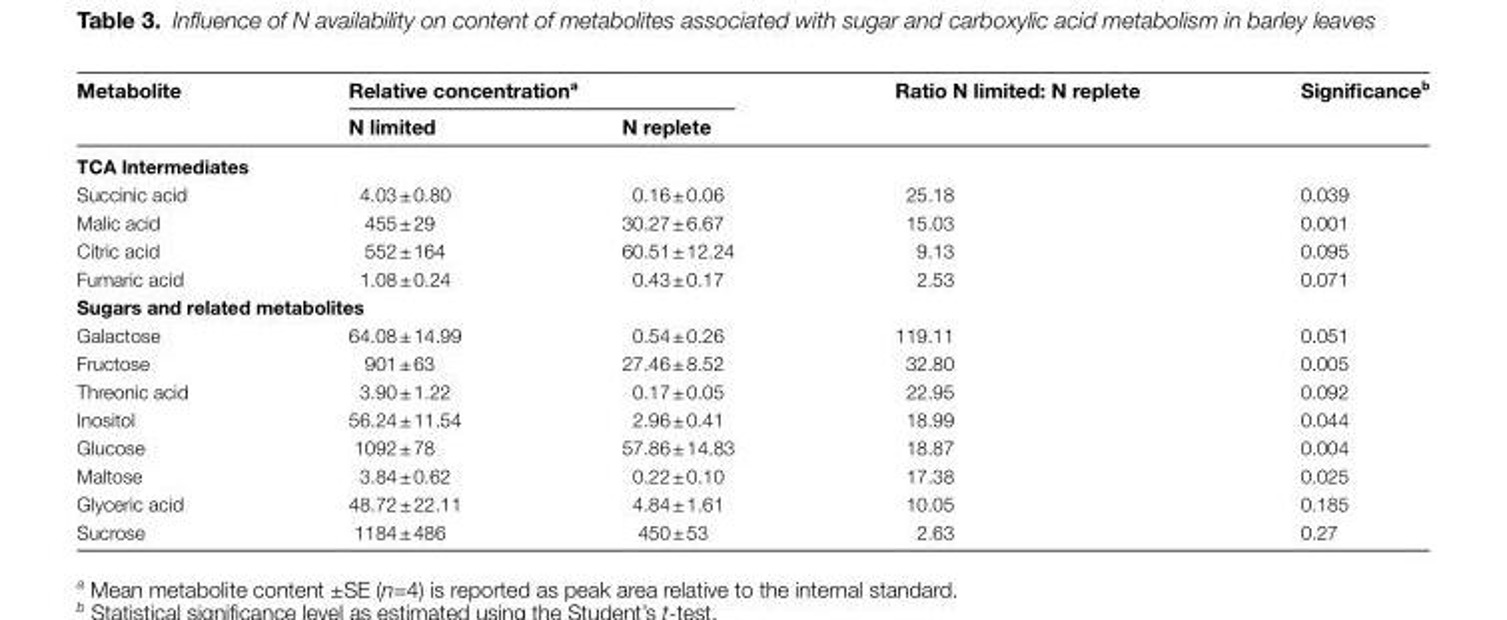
<table><thead><tr><td rowspan="2">Metabolite</td><td colspan="2">Relative concentration<sup>a</sup></td><td rowspan="2">Ratio N limited: N replete</td><td rowspan="2">Significance<sup>b</sup></td></tr><tr><td>N limited</td><td>N replete</td></tr></thead><tbody><tr><td colspan="5">TCA Intermediates</td></tr><tr><td>Succinic acid</td><td>4.03 ± 0.80</td><td>0.16 ± 0.06</td><td>25.18</td><td>0.039</td></tr><tr><td>Malic acid</td><td>455 ± 29</td><td>30.27 ± 6.67</td><td>15.03</td><td>0.001</td></tr><tr><td>Citric acid</td><td>552 ± 164</td><td>60.51 ± 12.24</td><td>9.13</td><td>0.095</td></tr><tr><td>Fumaric acid</td><td>1.08 ± 0.24</td><td>0.43 ± 0.17</td><td>2.53</td><td>0.071</td></tr><tr><td colspan="5">Sugars and related metabolites</td></tr><tr><td>Galactose</td><td>64.08 ± 14.99</td><td>0.54 ± 0.26</td><td>119.11</td><td>0.051</td></tr><tr><td>Fructose</td><td>901 ± 63</td><td>27.46 ± 8.52</td><td>32.80</td><td>0.005</td></tr><tr><td>Threonic acid</td><td>3.90 ± 1.22</td><td>0.17 ± 0.05</td><td>22.95</td><td>0.092</td></tr><tr><td>Inositol</td><td>56.24 ± 11.54</td><td>2.96 ± 0.41</td><td>18.99</td><td>0.044</td></tr><tr><td>Glucose</td><td>1092 ± 78</td><td>57.86 ± 14.83</td><td>18.87</td><td>0.004</td></tr><tr><td>Maltose</td><td>3.84 ± 0.62</td><td>0.22 ± 0.10</td><td>17.38</td><td>0.025</td></tr><tr><td>Glyceric acid</td><td>48.72 ± 22.11</td><td>4.84 ± 1.61</td><td>10.05</td><td>0.185</td></tr><tr><td>Sucrose</td><td>1184 ± 486</td><td>450 ± 53</td><td>2.63</td><td>0.27</td></tr></tbody></table>